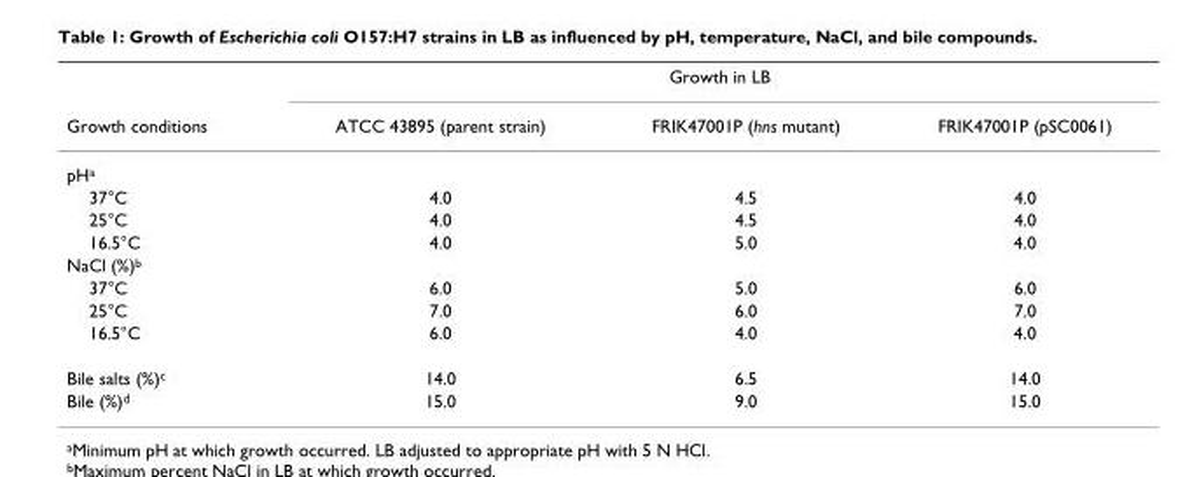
<table><thead><tr><td rowspan="2">Growth conditions</td><td colspan="3">Growth in LB</td></tr><tr><td>ATCC 43895 (parent strain)</td><td>FRIK47001P (hns mutant)</td><td>FRIK47001P (pSC0061)</td></tr></thead><tbody><tr><td colspan="4">pHa</td></tr><tr><td>37°C</td><td>4.0</td><td>4.5</td><td>4.0</td></tr><tr><td>25°C</td><td>4.0</td><td>4.5</td><td>4.0</td></tr><tr><td>16.5°C</td><td>4.0</td><td>5.0</td><td>4.0</td></tr><tr><td colspan="4">NaCl (%)b</td></tr><tr><td>37°C</td><td>6.0</td><td>5.0</td><td>6.0</td></tr><tr><td>25°C</td><td>7.0</td><td>6.0</td><td>7.0</td></tr><tr><td>16.5°C</td><td>6.0</td><td>4.0</td><td>4.0</td></tr><tr><td>Bile salts (%)c</td><td>14.0</td><td>6.5</td><td>14.0</td></tr><tr><td>Bile (%)d</td><td>15.0</td><td>9.0</td><td>15.0</td></tr></tbody></table>